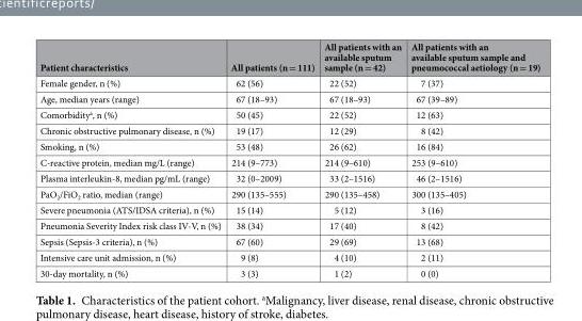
<table><thead><tr><td>Patient characteristics</td><td>All patients (n = 111)</td><td>All patients with an available sputum sample (n = 42)</td><td>All patients with an available sputum sample and pneumococcal aetiology (n = 19)</td></tr></thead><tbody><tr><td>Female gender, n (%)</td><td>62 (56)</td><td>22 (52)</td><td>7 (37)</td></tr><tr><td>Age, median years (range)</td><td>67 (18–93)</td><td>67 (18–93)</td><td>67 (39–89)</td></tr><tr><td>Comorbidity<sup>a</sup>, n (%)</td><td>50 (45)</td><td>22 (52)</td><td>12 (63)</td></tr><tr><td>Chronic obstructive pulmonary disease, n (%)</td><td>19 (17)</td><td>12 (29)</td><td>8 (42)</td></tr><tr><td>Smoking, n (%)</td><td>53 (48)</td><td>26 (62)</td><td>16 (84)</td></tr><tr><td>C-reactive protein, median mg/L (range)</td><td>214 (9–773)</td><td>214 (9–610)</td><td>253 (9–610)</td></tr><tr><td>Plasma interleukin-8, median pg/mL (range)</td><td>32 (0–2009)</td><td>33 (2–1516)</td><td>46 (2–1516)</td></tr><tr><td>PaO<sub>2</sub>/FiO<sub>2</sub> ratio, median (range)</td><td>290 (135–555)</td><td>290 (135–458)</td><td>300 (135–405)</td></tr><tr><td>Severe pneumonia (ATS/IDSA criteria), n (%)</td><td>15 (14)</td><td>5 (12)</td><td>3 (16)</td></tr><tr><td>Pneumonia Severity Index risk class IV-V, n (%)</td><td>38 (34)</td><td>17 (40)</td><td>8 (42)</td></tr><tr><td>Sepsis (Sepsis-3 criteria), n (%)</td><td>67 (60)</td><td>29 (69)</td><td>13 (68)</td></tr><tr><td>Intensive care unit admission, n (%)</td><td>9 (8)</td><td>4 (10)</td><td>2 (11)</td></tr><tr><td>30-day mortality, n (%)</td><td>3 (3)</td><td>1 (2)</td><td>0 (0)</td></tr></tbody></table>